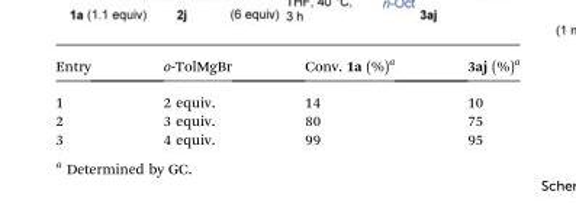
<table><thead><tr><td>Entry</td><td>o-TolMgBr</td><td>Conv. 1a (%)<sup>a</sup></td><td>3aj (%)<sup>a</sup></td></tr></thead><tbody><tr><td>1</td><td>2 equiv.</td><td>14</td><td>10</td></tr><tr><td>2</td><td>3 equiv.</td><td>80</td><td>75</td></tr><tr><td>3</td><td>4 equiv.</td><td>99</td><td>95</td></tr></tbody></table>